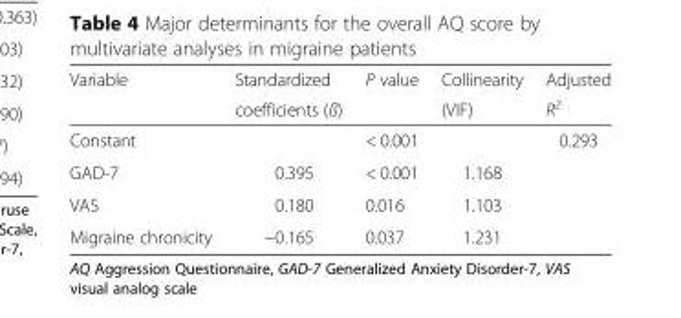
<table><thead><tr><td rowspan="2">Variable</td><td rowspan="2">Standardized coefficients (ß)</td><td rowspan="2">P value</td><td rowspan="2">Collinearity (VIF)</td><td rowspan="2">Adjusted R<sup>2</sup></td></tr><tr></tr></thead><tbody><tr><td>Constant</td><td></td><td>&lt; 0.001</td><td></td><td>0.293</td></tr><tr><td>GAD-7</td><td>0.395</td><td>&lt; 0.001</td><td>1.168</td><td></td></tr><tr><td>VAS</td><td>0.180</td><td>0.016</td><td>1.103</td><td></td></tr><tr><td>Migraine chronicity</td><td>−0.165</td><td>0.037</td><td>1.231</td><td></td></tr></tbody></table>